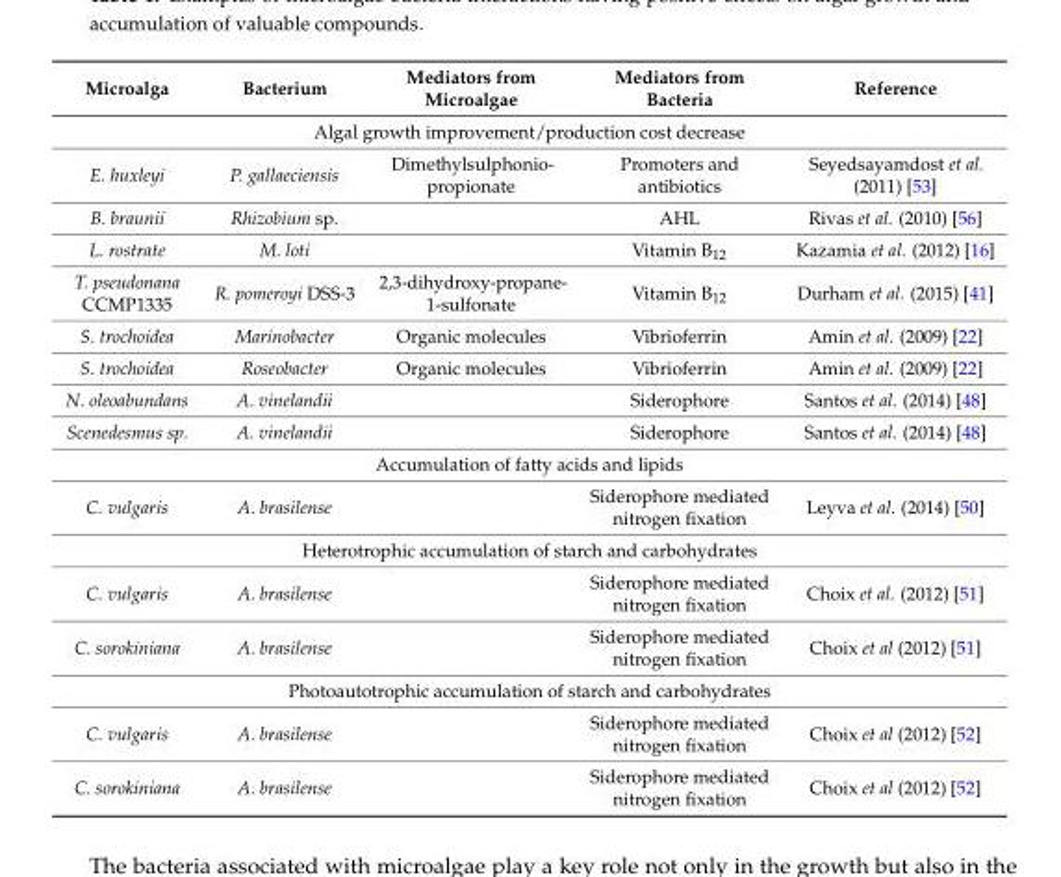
<table><thead><tr><td>Microalga</td><td>Bacterium</td><td>Mediators from Microalgae</td><td>Mediators from Bacteria</td><td>Reference</td></tr></thead><tbody><tr><td colspan="5">Algal growth improvement/production cost decrease</td></tr><tr><td>E. huxleyi</td><td>P. gallaeciensis</td><td>Dimethylsulphonio- propionate</td><td>Promoters and antibiotics</td><td>Seyedsayamdost et al. (2011) [53]</td></tr><tr><td>B. braunii</td><td>Rhizobium sp.</td><td></td><td>AHL</td><td>Rivas et al. (2010) [56]</td></tr><tr><td>L. rostrate</td><td>M. loti</td><td></td><td>Vitamin B<sub>12</sub></td><td>Kazamia et al. (2012) [16]</td></tr><tr><td>T. pseudonana CCMP1335</td><td>R. pomeroyi DSS-3</td><td>2,3-dihydroxy-propane- 1-sulfonate</td><td>Vitamin B<sub>12</sub></td><td>Durham et al. (2015) [41]</td></tr><tr><td>S. trochoidea</td><td>Marinobacter</td><td>Organic molecules</td><td>Vibrioferrin</td><td>Amin et al. (2009) [22]</td></tr><tr><td>S. trochoidea</td><td>Roseobacter</td><td>Organic molecules</td><td>Vibrioferrin</td><td>Amin et al. (2009) [22]</td></tr><tr><td>N. oleoabundans</td><td>A. vinelandii</td><td></td><td>Siderophore</td><td>Santos et al. (2014) [48]</td></tr><tr><td>Scenedesmus sp.</td><td>A. vinelandii</td><td></td><td>Siderophore</td><td>Santos et al. (2014) [48]</td></tr><tr><td colspan="5">Accumulation of fatty acids and lipids</td></tr><tr><td>C. vulgaris</td><td>A. brasilense</td><td></td><td>Siderophore mediated nitrogen fixation</td><td>Leyva et al. (2014) [50]</td></tr><tr><td colspan="5">Heterotrophic accumulation of starch and carbohydrates</td></tr><tr><td>C. vulgaris</td><td>A. brasilense</td><td></td><td>Siderophore mediated nitrogen fixation</td><td>Choix et al. (2012) [51]</td></tr><tr><td>C. sorokiniana</td><td>A. brasilense</td><td></td><td>Siderophore mediated nitrogen fixation</td><td>Choix et al (2012) [51]</td></tr><tr><td colspan="5">Photoautotrophic accumulation of starch and carbohydrates</td></tr><tr><td>C. vulgaris</td><td>A. brasilense</td><td></td><td>Siderophore mediated nitrogen fixation</td><td>Choix et al (2012) [52]</td></tr><tr><td>C. sorokiniana</td><td>A. brasilense</td><td></td><td>Siderophore mediated nitrogen fixation</td><td>Choix et al (2012) [52]</td></tr></tbody></table>